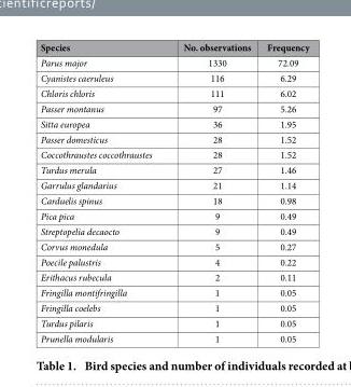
<table><thead><tr><td>Species</td><td>No. observations</td><td>Frequency</td></tr></thead><tbody><tr><td>Parus major</td><td>1330</td><td>72.09</td></tr><tr><td>Cyanistes caeruleus</td><td>116</td><td>6.29</td></tr><tr><td>Chloris chloris</td><td>111</td><td>6.02</td></tr><tr><td>Passer montanus</td><td>97</td><td>5.26</td></tr><tr><td>Sitta europea</td><td>36</td><td>1.95</td></tr><tr><td>Passer domesticus</td><td>28</td><td>1.52</td></tr><tr><td>Coccothraustes coccothraustes</td><td>28</td><td>1.52</td></tr><tr><td>Turdus merula</td><td>27</td><td>1.46</td></tr><tr><td>Garrulus glandarius</td><td>21</td><td>1.14</td></tr><tr><td>Carduelis spinus</td><td>18</td><td>0.98</td></tr><tr><td>Pica pica</td><td>9</td><td>0.49</td></tr><tr><td>Streptopelia decaocto</td><td>9</td><td>0.49</td></tr><tr><td>Corvus monedula</td><td>5</td><td>0.27</td></tr><tr><td>Poecile palustris</td><td>4</td><td>0.22</td></tr><tr><td>Erithacus rubecula</td><td>2</td><td>0.11</td></tr><tr><td>Fringilla montifringilla</td><td>1</td><td>0.05</td></tr><tr><td>Fringilla coelebs</td><td>1</td><td>0.05</td></tr><tr><td>Turdus pilaris</td><td>1</td><td>0.05</td></tr><tr><td>Prunella modularis</td><td>1</td><td>0.05</td></tr></tbody></table>